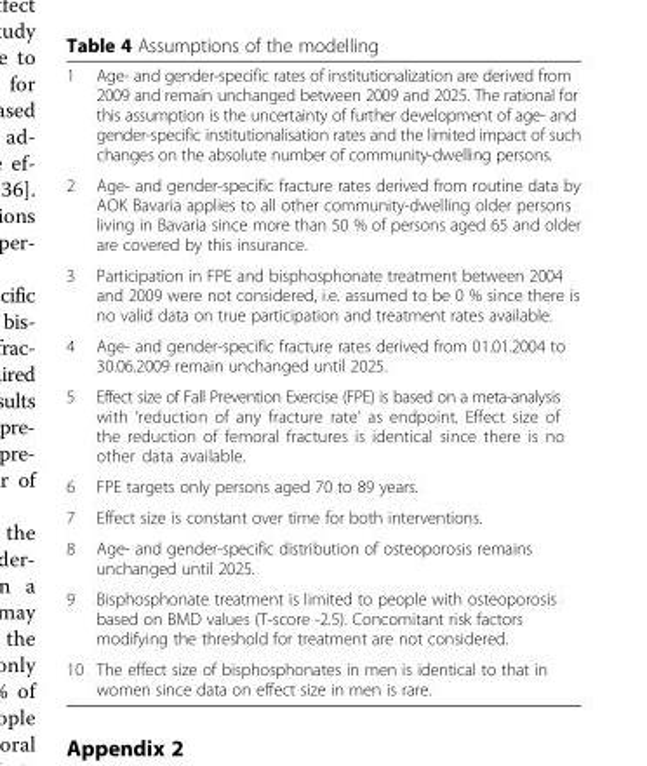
<table><tbody><tr><td>1</td><td>Age- and gender-specific rates of institutionalization are derived from 2009 and remain unchanged between 2009 and 2025. The rational for this assumption is the uncertainty of further development of age- and gender-specific institutionalisation rates and the limited impact of such changes on the absolute number of community-dwelling persons.</td></tr><tr><td>2</td><td>Age- and gender-specific fracture rates derived from routine data by AOK Bavaria applies to all other community-dwelling older persons living in Bavaria since more than 50 % of persons aged 65 and older are covered by this insurance.</td></tr><tr><td>3</td><td>Participation in FPE and bisphosphonate treatment between 2004 and 2009 were not considered, i.e. assumed to be 0 % since there is no valid data on true participation and treatment rates available.</td></tr><tr><td>4</td><td>Age- and gender-specific fracture rates derived from 01.01.2004 to 30.06.2009 remain unchanged until 2025.</td></tr><tr><td>5</td><td>Effect size of Fall Prevention Exercise (FPE) is based on a meta-analysis with ‘reduction of any fracture rate’ as endpoint. Effect size of the reduction of femoral fractures is identical since there is no other data available.</td></tr><tr><td>6</td><td>FPE targets only persons aged 70 to 89 years.</td></tr><tr><td>7</td><td>Effect size is constant over time for both interventions.</td></tr><tr><td>8</td><td>Age- and gender-specific distribution of osteoporosis remains unchanged until 2025.</td></tr><tr><td>9</td><td>Bisphosphonate treatment is limited to people with osteoporosis based on BMD values (T-score -2.5). Concomitant risk factors modifying the threshold for treatment are not considered.</td></tr><tr><td>10</td><td>The effect size of bisphosphonates in men is identical to that in women since data on effect size in men is rare.</td></tr></tbody></table>